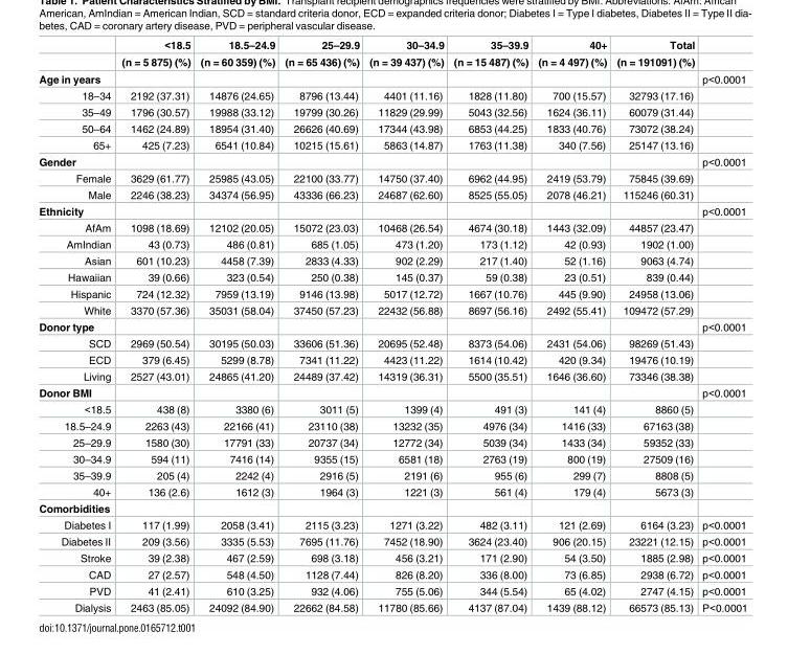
<table><thead><tr><td rowspan="2"></td><td rowspan="2">&lt;18.5 (n = 5 875) (%)</td><td rowspan="2">18.5–24.9 (n = 60 359) (%)</td><td rowspan="2">25–29.9 (n = 65 436) (%)</td><td rowspan="2">30–34.9 (n = 39 437) (%)</td><td rowspan="2">35–39.9 (n = 15 487) (%)</td><td rowspan="2">40+ (n = 4 497) (%)</td><td rowspan="2">Total (n = 191091) (%)</td><td rowspan="2"></td></tr><tr></tr></thead><tbody><tr><td>Age in years</td><td></td><td></td><td></td><td></td><td></td><td></td><td></td><td>p&lt;0.0001</td></tr><tr><td>18–34</td><td>2192 (37.31)</td><td>14876 (24.65)</td><td>8796 (13.44)</td><td>4401 (11.16)</td><td>1828 (11.80)</td><td>700 (15.57)</td><td>32793 (17.16)</td><td></td></tr><tr><td>35–49</td><td>1796 (30.57)</td><td>19988 (33.12)</td><td>19799 (30.26)</td><td>11829 (29.99)</td><td>5043 (32.56)</td><td>1624 (36.11)</td><td>60079 (31.44)</td><td></td></tr><tr><td>50–64</td><td>1462 (24.89)</td><td>18954 (31.40)</td><td>26626 (40.69)</td><td>17344 (43.98)</td><td>6853 (44.25)</td><td>1833 (40.76)</td><td>73072 (38.24)</td><td></td></tr><tr><td>65+</td><td>425 (7.23)</td><td>6541 (10.84)</td><td>10215 (15.61)</td><td>5863 (14.87)</td><td>1763 (11.38)</td><td>340 (7.56)</td><td>25147 (13.16)</td><td></td></tr><tr><td>Gender</td><td></td><td></td><td></td><td></td><td></td><td></td><td></td><td>p&lt;0.0001</td></tr><tr><td>Female</td><td>3629 (61.77)</td><td>25985 (43.05)</td><td>22100 (33.77)</td><td>14750 (37.40)</td><td>6962 (44.95)</td><td>2419 (53.79)</td><td>75845 (39.69)</td><td></td></tr><tr><td>Male</td><td>2246 (38.23)</td><td>34374 (56.95)</td><td>43336 (66.23)</td><td>24687 (62.60)</td><td>8525 (55.05)</td><td>2078 (46.21)</td><td>115246 (60.31)</td><td></td></tr><tr><td>Ethnicity</td><td></td><td></td><td></td><td></td><td></td><td></td><td></td><td>p&lt;0.0001</td></tr><tr><td>AfAm</td><td>1098 (18.69)</td><td>12102 (20.05)</td><td>15072 (23.03)</td><td>10468 (26.54)</td><td>4674 (30.18)</td><td>1443 (32.09)</td><td>44857 (23.47)</td><td></td></tr><tr><td>AmIndian</td><td>43 (0.73)</td><td>486 (0.81)</td><td>685 (1.05)</td><td>473 (1.20)</td><td>173 (1.12)</td><td>42 (0.93)</td><td>1902 (1.00)</td><td></td></tr><tr><td>Asian</td><td>601 (10.23)</td><td>4458 (7.39)</td><td>2833 (4.33)</td><td>902 (2.29)</td><td>217 (1.40)</td><td>52 (1.16)</td><td>9063 (4.74)</td><td></td></tr><tr><td>Hawaiian</td><td>39 (0.66)</td><td>323 (0.54)</td><td>250 (0.38)</td><td>145 (0.37)</td><td>59 (0.38)</td><td>23 (0.51)</td><td>839 (0.44)</td><td></td></tr><tr><td>Hispanic</td><td>724 (12.32)</td><td>7959 (13.19)</td><td>9146 (13.98)</td><td>5017 (12.72)</td><td>1667 (10.76)</td><td>445 (9.90)</td><td>24958 (13.06)</td><td></td></tr><tr><td>White</td><td>3370 (57.36)</td><td>35031 (58.04)</td><td>37450 (57.23)</td><td>22432 (56.88)</td><td>8697 (56.16)</td><td>2492 (55.41)</td><td>109472 (57.29)</td><td></td></tr><tr><td>Donor type</td><td></td><td></td><td></td><td></td><td></td><td></td><td></td><td>p&lt;0.0001</td></tr><tr><td>SCD</td><td>2969 (50.54)</td><td>30195 (50.03)</td><td>33606 (51.36)</td><td>20695 (52.48)</td><td>8373 (54.06)</td><td>2431 (54.06)</td><td>98269 (51.43)</td><td></td></tr><tr><td>ECD</td><td>379 (6.45)</td><td>5299 (8.78)</td><td>7341 (11.22)</td><td>4423 (11.22)</td><td>1614 (10.42)</td><td>420 (9.34)</td><td>19476 (10.19)</td><td></td></tr><tr><td>Living</td><td>2527 (43.01)</td><td>24865 (41.20)</td><td>24489 (37.42)</td><td>14319 (36.31)</td><td>5500 (35.51)</td><td>1646 (36.60)</td><td>73346 (38.38)</td><td></td></tr><tr><td>Donor BMI</td><td></td><td></td><td></td><td></td><td></td><td></td><td></td><td>p&lt;0.0001</td></tr><tr><td>&lt;18.5</td><td>438 (8)</td><td>3380 (6)</td><td>3011 (5)</td><td>1399 (4)</td><td>491 (3)</td><td>141 (4)</td><td>8860 (5)</td><td></td></tr><tr><td>18.5–24.9</td><td>2263 (43)</td><td>22166 (41)</td><td>23110 (38)</td><td>13232 (35)</td><td>4976 (34)</td><td>1416 (33)</td><td>67163 (38)</td><td></td></tr><tr><td>25–29.9</td><td>1580 (30)</td><td>17791 (33)</td><td>20737 (34)</td><td>12772 (34)</td><td>5039 (34)</td><td>1433 (34)</td><td>59352 (33)</td><td></td></tr><tr><td>30–34.9</td><td>594 (11)</td><td>7416 (14)</td><td>9355 (15)</td><td>6581 (18)</td><td>2763 (19)</td><td>800 (19)</td><td>27509 (16)</td><td></td></tr><tr><td>35–39.9</td><td>205 (4)</td><td>2242 (4)</td><td>2916 (5)</td><td>2191 (6)</td><td>955 (6)</td><td>299 (7)</td><td>8808 (5)</td><td></td></tr><tr><td>40+</td><td>136 (2.6)</td><td>1612 (3)</td><td>1964 (3)</td><td>1221 (3)</td><td>561 (4)</td><td>179 (4)</td><td>5673 (3)</td><td></td></tr><tr><td colspan="9">Comorbidities</td></tr><tr><td>Diabetes I</td><td>117 (1.99)</td><td>2058 (3.41)</td><td>2115 (3.23)</td><td>1271 (3.22)</td><td>482 (3.11)</td><td>121 (2.69)</td><td>6164 (3.23)</td><td>p&lt;0.0001</td></tr><tr><td>Diabetes II</td><td>209 (3.56)</td><td>3335 (5.53)</td><td>7695 (11.76)</td><td>7452 (18.90)</td><td>3624 (23.40)</td><td>906 (20.15)</td><td>23221 (12.15)</td><td>p&lt;0.0001</td></tr><tr><td>Stroke</td><td>39 (2.38)</td><td>467 (2.59)</td><td>698 (3.18)</td><td>456 (3.21)</td><td>171 (2.90)</td><td>54 (3.50)</td><td>1885 (2.98)</td><td>p&lt;0.0001</td></tr><tr><td>CAD</td><td>27 (2.57)</td><td>548 (4.50)</td><td>1128 (7.44)</td><td>826 (8.20)</td><td>336 (8.00)</td><td>73 (6.85)</td><td>2938 (6.72)</td><td>p&lt;0.0001</td></tr><tr><td>PVD</td><td>41 (2.41)</td><td>610 (3.25)</td><td>932 (4.06)</td><td>755 (5.06)</td><td>344 (5.54)</td><td>65 (4.02)</td><td>2747 (4.15)</td><td>p&lt;0.0001</td></tr><tr><td>Dialysis</td><td>2463 (85.05)</td><td>24092 (84.90)</td><td>22662 (84.58)</td><td>11780 (85.66)</td><td>4137 (87.04)</td><td>1439 (88.12)</td><td>66573 (85.13)</td><td>P&lt;0.0001</td></tr></tbody></table>